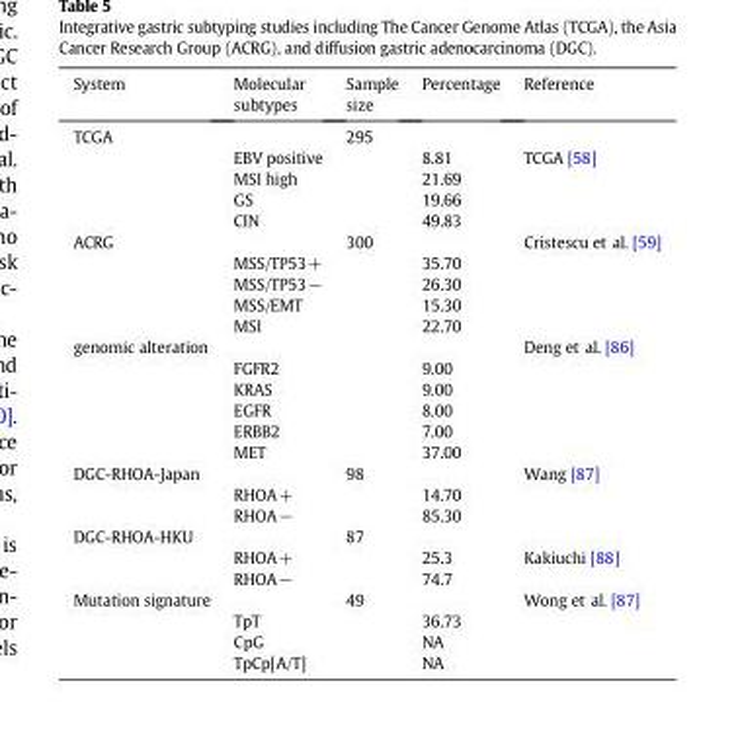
<table><thead><tr><td>System</td><td>Molecular subtypes</td><td>Sample size</td><td>Percentage</td><td>Reference</td></tr></thead><tbody><tr><td rowspan="5">TCGA</td><td></td><td>295</td><td></td><td></td></tr><tr><td>EBV positive</td><td></td><td>8.81</td><td>TCGA [58]</td></tr><tr><td>MSI high</td><td></td><td>21.69</td><td></td></tr><tr><td>GS</td><td></td><td>19.66</td><td></td></tr><tr><td>CIN</td><td></td><td>49.83</td><td></td></tr><tr><td rowspan="5">ACRG</td><td></td><td>300</td><td></td><td>Cristescu et al. [59]</td></tr><tr><td>MSS/TP53+</td><td></td><td>35.70</td><td></td></tr><tr><td>MSS/TP53−</td><td></td><td>26.30</td><td></td></tr><tr><td>MSS/EMT</td><td></td><td>15.30</td><td></td></tr><tr><td>MSI</td><td></td><td>22.70</td><td></td></tr><tr><td rowspan="6">genomic alteration</td><td></td><td></td><td></td><td>Deng et al. [86]</td></tr><tr><td>FGFR2</td><td></td><td>9.00</td><td></td></tr><tr><td>KRAS</td><td></td><td>9.00</td><td></td></tr><tr><td>EGFR</td><td></td><td>8.00</td><td></td></tr><tr><td>ERBB2</td><td></td><td>7.00</td><td></td></tr><tr><td>MET</td><td></td><td>37.00</td><td></td></tr><tr><td rowspan="3">DGC-RHOA-Japan</td><td></td><td>98</td><td></td><td>Wang [87]</td></tr><tr><td>RHOA+</td><td></td><td>14.70</td><td></td></tr><tr><td>RHOA−</td><td></td><td>85.30</td><td></td></tr><tr><td rowspan="3">DGC-RHOA-HKU</td><td></td><td>87</td><td></td><td></td></tr><tr><td>RHOA+</td><td></td><td>25.3</td><td>Kakiuchi [88]</td></tr><tr><td>RHOA−</td><td></td><td>74.7</td><td></td></tr><tr><td rowspan="4">Mutation signature</td><td></td><td>49</td><td></td><td>Wong et al. [87]</td></tr><tr><td>TpT</td><td></td><td>36.73</td><td></td></tr><tr><td>CpG</td><td></td><td>NA</td><td></td></tr><tr><td>TpCp[A/T]</td><td></td><td>NA</td><td></td></tr></tbody></table>